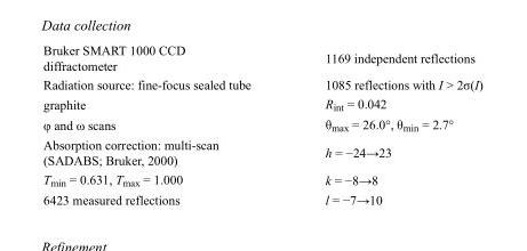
<table><tbody><tr><td>Bruker SMART 1000 CCD diffractometer</td><td>1169 independent reflections</td></tr><tr><td>Radiation source: fine-focus sealed tube</td><td>1085 reflections with I &gt; 2σ(I)</td></tr><tr><td>graphite</td><td>R<sub>int</sub> = 0.042</td></tr><tr><td>φ and ω scans</td><td>θ<sub>max</sub> = 26.0°, θ<sub>min</sub> = 2.7°</td></tr><tr><td>Absorption correction: multi-scan (SADABS; Bruker, 2000)</td><td>h = −24→23</td></tr><tr><td>T<sub>min</sub> = 0.631, T<sub>max</sub> = 1.000</td><td>k = −8→8</td></tr><tr><td>6423 measured reflections</td><td>l = −7→10</td></tr></tbody></table>